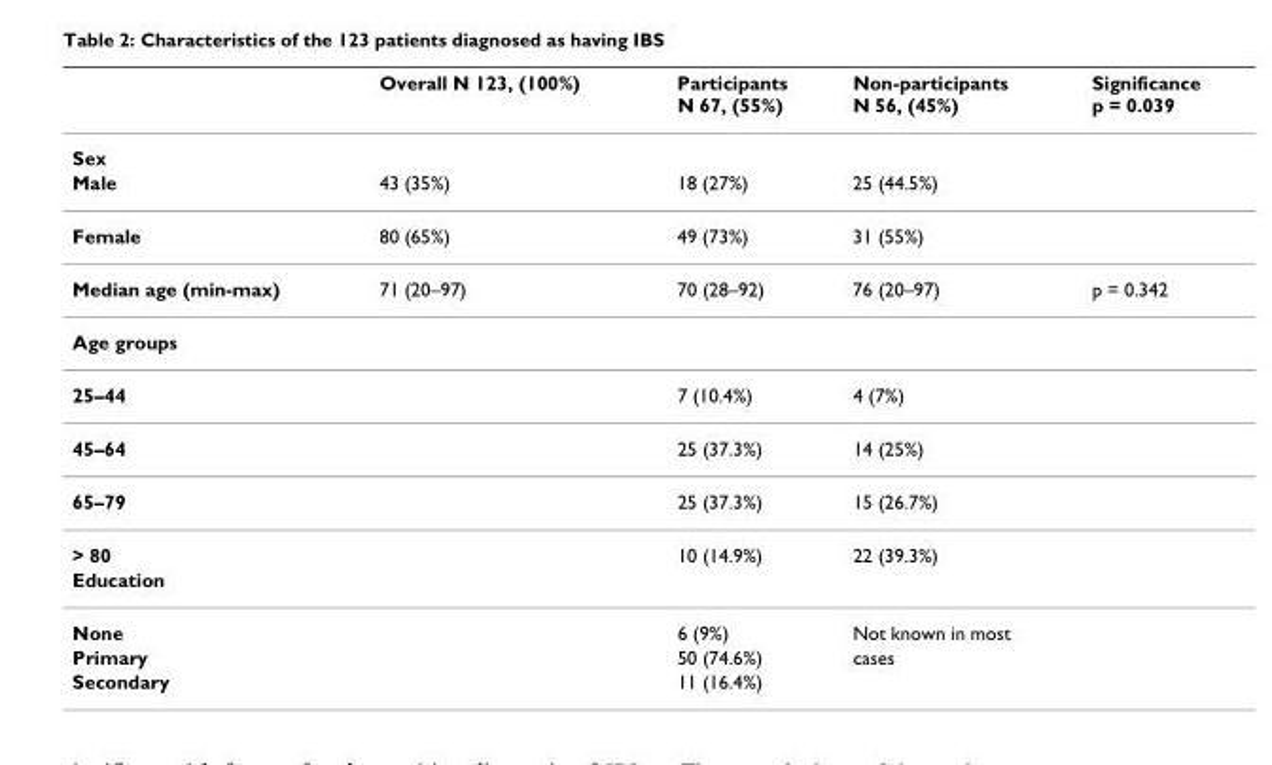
<table><thead><tr><td></td><td>Overall N 123, (100%)</td><td>Participants N 67, (55%)</td><td>Non-participants N 56, (45%)</td><td>Significance p = 0.039</td></tr></thead><tbody><tr><td colspan="5">Sex</td></tr><tr><td>Male</td><td>43 (35%)</td><td>18 (27%)</td><td>25 (44.5%)</td><td></td></tr><tr><td>Female</td><td>80 (65%)</td><td>49 (73%)</td><td>31 (55%)</td><td></td></tr><tr><td>Median age (min-max)</td><td>71 (20–97)</td><td>70 (28–92)</td><td>76 (20–97)</td><td>p = 0.342</td></tr><tr><td colspan="5">Age groups</td></tr><tr><td>25–44</td><td></td><td>7 (10.4%)</td><td>4 (7%)</td><td></td></tr><tr><td>45–64</td><td></td><td>25 (37.3%)</td><td>14 (25%)</td><td></td></tr><tr><td>65–79</td><td></td><td>25 (37.3%)</td><td>15 (26.7%)</td><td></td></tr><tr><td>&gt; 80</td><td></td><td>10 (14.9%)</td><td>22 (39.3%)</td><td></td></tr><tr><td colspan="5">Education</td></tr><tr><td>None</td><td></td><td>6 (9%)</td><td>Not known in most</td><td></td></tr><tr><td>Primary</td><td></td><td>50 (74.6%)</td><td>cases</td><td></td></tr><tr><td>Secondary</td><td></td><td>11 (16.4%)</td><td></td><td></td></tr></tbody></table>